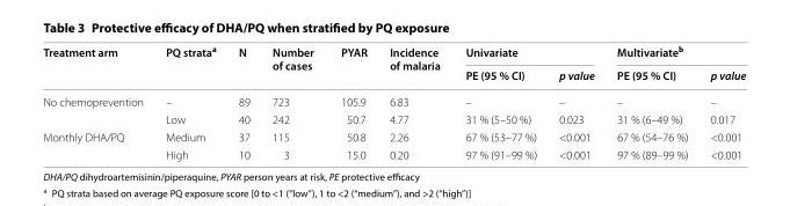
<table><thead><tr><td rowspan="2">Treatment arm</td><td rowspan="2">PQ strata<sup>a</sup></td><td rowspan="2">N</td><td rowspan="2">Number of cases</td><td rowspan="2">PYAR</td><td rowspan="2">Incidence of malaria</td><td colspan="2">Univariate</td><td colspan="2">Multivariate<sup>b</sup></td></tr><tr><td>PE (95 % CI)</td><td>p value</td><td>PE (95 % CI)</td><td>p value</td></tr></thead><tbody><tr><td rowspan="2">No chemoprevention</td><td>–</td><td>89</td><td>723</td><td>105.9</td><td>6.83</td><td>–</td><td>–</td><td>–</td><td>–</td></tr><tr><td>Low</td><td>40</td><td>242</td><td>50.7</td><td>4.77</td><td>31 % (5–50 %)</td><td>0.023</td><td>31 % (6–49 %)</td><td>0.017</td></tr><tr><td rowspan="2">Monthly DHA/PQ</td><td>Medium</td><td>37</td><td>115</td><td>50.8</td><td>2.26</td><td>67 % (53–77 %)</td><td>&lt;0.001</td><td>67 % (54–76 %)</td><td>&lt;0.001</td></tr><tr><td>High</td><td>10</td><td>3</td><td>15.0</td><td>0.20</td><td>97 % (91–99 %)</td><td>&lt;0.001</td><td>97 % (89–99 %)</td><td>&lt;0.001</td></tr></tbody></table>